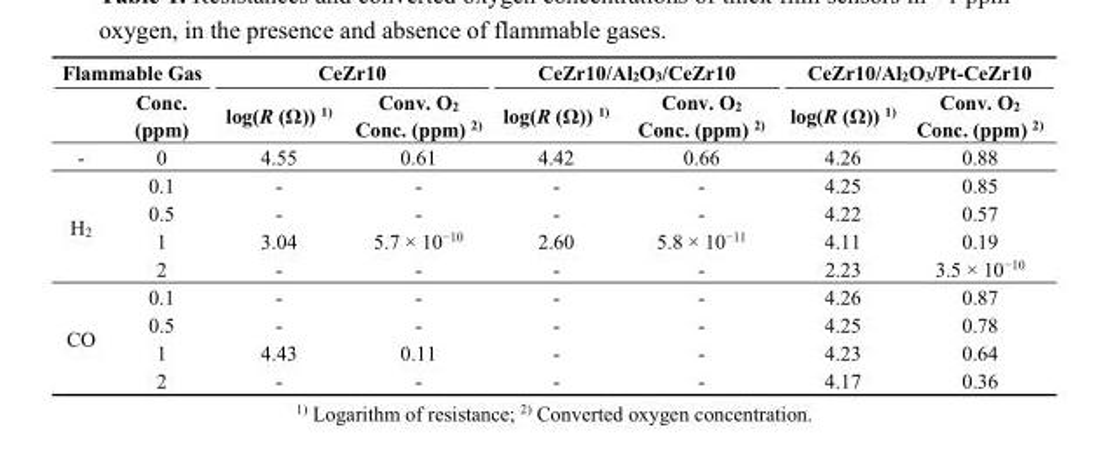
<table><thead><tr><td colspan="2">Flammable Gas</td><td colspan="2">CeZr10</td><td colspan="2">CeZr10/Al<sub>2</sub>O<sub>3</sub>/CeZr10</td><td colspan="2">CeZr10/Al<sub>2</sub>O<sub>3</sub>/Pt-CeZr10</td></tr><tr><td></td><td>Conc. (ppm)</td><td>log(R (Ω)) <sup>1)</sup></td><td>Conv. O<sub>2</sub> Conc. (ppm) <sup>2)</sup></td><td>log(R (Ω)) <sup>1)</sup></td><td>Conv. O<sub>2</sub> Conc. (ppm) <sup>2)</sup></td><td>log(R (Ω)) <sup>1)</sup></td><td>Conv. O<sub>2</sub> Conc. (ppm) <sup>2)</sup></td></tr></thead><tbody><tr><td>-</td><td>0</td><td>4.55</td><td>0.61</td><td>4.42</td><td>0.66</td><td>4.26</td><td>0.88</td></tr><tr><td rowspan="4">H<sub>2</sub></td><td>0.1</td><td>-</td><td>-</td><td>-</td><td>-</td><td>4.25</td><td>0.85</td></tr><tr><td>0.5</td><td>-</td><td>-</td><td>-</td><td>-</td><td>4.22</td><td>0.57</td></tr><tr><td>1</td><td>3.04</td><td>5.7 × 10<sup>−10</sup></td><td>2.60</td><td>5.8 × 10<sup>−11</sup></td><td>4.11</td><td>0.19</td></tr><tr><td>2</td><td>-</td><td>-</td><td>-</td><td>-</td><td>2.23</td><td>3.5 × 10<sup>−10</sup></td></tr><tr><td rowspan="4">CO</td><td>0.1</td><td>-</td><td>-</td><td>-</td><td>-</td><td>4.26</td><td>0.87</td></tr><tr><td>0.5</td><td>-</td><td>-</td><td>-</td><td>-</td><td>4.25</td><td>0.78</td></tr><tr><td>1</td><td>4.43</td><td>0.11</td><td>-</td><td>-</td><td>4.23</td><td>0.64</td></tr><tr><td>2</td><td>-</td><td>-</td><td>-</td><td>-</td><td>4.17</td><td>0.36</td></tr></tbody></table>